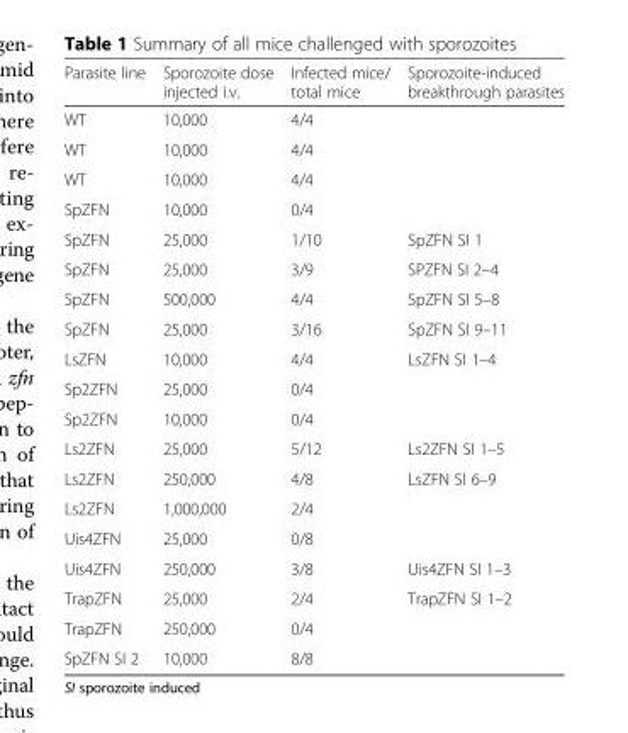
<table><thead><tr><td>Parasite line</td><td>Sporozoite dose injected i.v.</td><td>Infected mice/ total mice</td><td>Sporozoite-induced breakthrough parasites</td></tr></thead><tbody><tr><td>WT</td><td>10,000</td><td>4/4</td><td></td></tr><tr><td>WT</td><td>10,000</td><td>4/4</td><td></td></tr><tr><td>WT</td><td>10,000</td><td>4/4</td><td></td></tr><tr><td>SpZFN</td><td>10,000</td><td>0/4</td><td></td></tr><tr><td>SpZFN</td><td>25,000</td><td>1/10</td><td>SpZFN SI 1</td></tr><tr><td>SpZFN</td><td>25,000</td><td>3/9</td><td>SPZFN SI 2–4</td></tr><tr><td>SpZFN</td><td>500,000</td><td>4/4</td><td>SpZFN SI 5–8</td></tr><tr><td>SpZFN</td><td>25,000</td><td>3/16</td><td>SpZFN SI 9–11</td></tr><tr><td>LsZFN</td><td>10,000</td><td>4/4</td><td>LsZFN SI 1–4</td></tr><tr><td>Sp2ZFN</td><td>25,000</td><td>0/4</td><td></td></tr><tr><td>Sp2ZFN</td><td>10,000</td><td>0/4</td><td></td></tr><tr><td>Ls2ZFN</td><td>25,000</td><td>5/12</td><td>Ls2ZFN SI 1–5</td></tr><tr><td>Ls2ZFN</td><td>250,000</td><td>4/8</td><td>LsZFN SI 6–9</td></tr><tr><td>Ls2ZFN</td><td>1,000,000</td><td>2/4</td><td></td></tr><tr><td>Uis4ZFN</td><td>25,000</td><td>0/8</td><td></td></tr><tr><td>Uis4ZFN</td><td>250,000</td><td>3/8</td><td>Uis4ZFN SI 1–3</td></tr><tr><td>TrapZFN</td><td>25,000</td><td>2/4</td><td>TrapZFN SI 1–2</td></tr><tr><td>TrapZFN</td><td>250,000</td><td>0/4</td><td></td></tr><tr><td>SpZFN SI 2</td><td>10,000</td><td>8/8</td><td></td></tr></tbody></table>